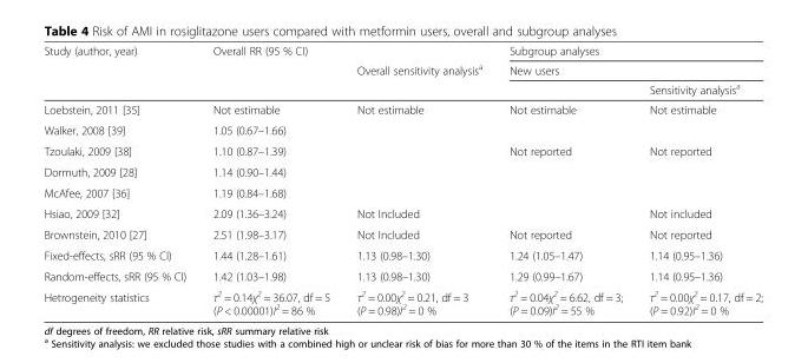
<table><thead><tr><td rowspan="3">Study (author, year)</td><td rowspan="3">Overall RR (95 % CI)</td><td rowspan="3">Overall sensitivity analysis<sup>a</sup></td><td rowspan="2" colspan="2">Subgroup analyses New users</td></tr><tr></tr><tr><td></td><td>Sensitivity analysis<sup>a</sup></td></tr></thead><tbody><tr><td>Loebstein, 2011 [35]</td><td>Not estimable</td><td>Not estimable</td><td>Not estimable</td><td>Not estimable</td></tr><tr><td>Walker, 2008 [39]</td><td>1.05 (0.67–1.66)</td><td></td><td></td><td></td></tr><tr><td>Tzoulaki, 2009 [38]</td><td>1.10 (0.87–1.39)</td><td></td><td>Not reported</td><td>Not reported</td></tr><tr><td>Dormuth, 2009 [28]</td><td>1.14 (0.90–1.44)</td><td></td><td></td><td></td></tr><tr><td>McAfee, 2007 [36]</td><td>1.19 (0.84–1.68)</td><td></td><td></td><td></td></tr><tr><td>Hsiao, 2009 [32]</td><td>2.09 (1.36–3.24)</td><td>Not Included</td><td></td><td>Not included</td></tr><tr><td>Brownstein, 2010 [27]</td><td>2.51 (1.98–3.17)</td><td>Not Included</td><td>Not reported</td><td>Not reported</td></tr><tr><td>Fixed-effects, sRR (95 % CI)</td><td>1.44 (1.28–1.61)</td><td>1.13 (0.98–1.30)</td><td>1.24 (1.05–1.47)</td><td>1.14 (0.95–1.36)</td></tr><tr><td>Random-effects, sRR (95 % CI)</td><td>1.42 (1.03–1.98)</td><td>1.13 (0.98–1.30)</td><td>1.29 (0.99–1.67)</td><td>1.14 (0.95–1.36)</td></tr><tr><td>Hetrogeneity statistics</td><td>τ<sup>2</sup> = 0.14χ<sup>2</sup> = 36.07, df = 5 (P &lt; 0.00001)I<sup>2</sup> = 86 %</td><td>τ<sup>2</sup> = 0.00χ<sup>2</sup> = 0.21, df = 3 (P = 0.98)I<sup>2</sup> = 0 %</td><td>τ<sup>2</sup> = 0.04χ<sup>2</sup> = 6.62, df = 3; (P = 0.09)I<sup>2</sup> = 55 %</td><td>τ<sup>2</sup> = 0.00χ<sup>2</sup> = 0.17, df = 2; (P = 0.92)I<sup>2</sup> = 0 %</td></tr></tbody></table>